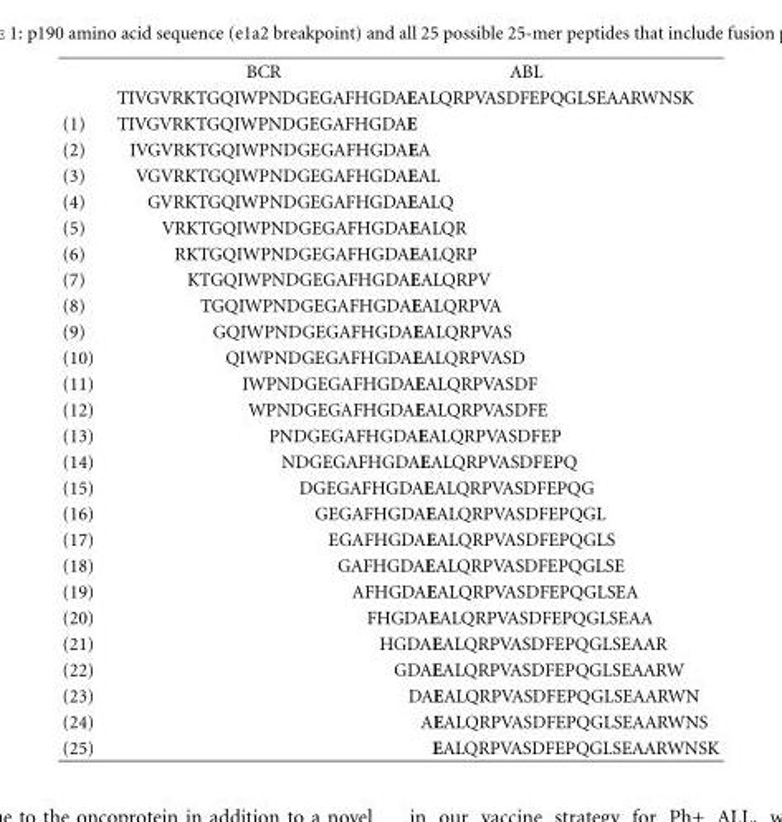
<table><thead><tr><td></td><td>BCR ABL</td></tr></thead><tbody><tr><td></td><td>TIVGVRKTGQIWPNDGEGAFHGDAEALQRPVASDFEPQGLSEAARWNSK</td></tr><tr><td>(1)</td><td>TIVGVRKTGQIWPNDGEGAFHGDAE</td></tr><tr><td>(2)</td><td>IVGVRKTGQIWPNDGEGAFHGDAEA</td></tr><tr><td>(3)</td><td>VGVRKTGQIWPNDGEGAFHGDAEAL</td></tr><tr><td>(4)</td><td>GVRKTGQIWPNDGEGAFHGDAEALQ</td></tr><tr><td>(5)</td><td>VRKTGQIWPNDGEGAFHGDAEALQR</td></tr><tr><td>(6)</td><td>RKTGQIWPNDGEGAFHGDAEALQRP</td></tr><tr><td>(7)</td><td>KTGQIWPNDGEGAFHGDAEALQRPV</td></tr><tr><td>(8)</td><td>TGQIWPNDGEGAFHGDAEALQRPVA</td></tr><tr><td>(9)</td><td>GQIWPNDGEGAFHGDAEALQRPVAS</td></tr><tr><td>(10)</td><td>QIWPNDGEGAFHGDAEALQRPVASD</td></tr><tr><td>(11)</td><td>IWPNDGEGAFHGDAEALQRPVASDF</td></tr><tr><td>(12)</td><td>WPNDGEGAFHGDAEALQRPVASDFE</td></tr><tr><td>(13)</td><td>PNDGEGAFHGDAEALQRPVASDFEP</td></tr><tr><td>(14)</td><td>NDGEGAFHGDAEALQRPVASDFEPQ</td></tr><tr><td>(15)</td><td>DGEGAFHGDAEALQRPVASDFEPQG</td></tr><tr><td>(16)</td><td>GEGAFHGDAEALQRPVASDFEPQGL</td></tr><tr><td>(17)</td><td>EGAFHGDAEALQRPVASDFEPQGLS</td></tr><tr><td>(18)</td><td>GAFHGDAEALQRPVASDFEPQGLSE</td></tr><tr><td>(19)</td><td>AFHGDAEALQRPVASDFEPQGLSEA</td></tr><tr><td>(20)</td><td>FHGDAEALQRPVASDFEPQGLSEAA</td></tr><tr><td>(21)</td><td>HGDAEALQRPVASDFEPQGLSEAAR</td></tr><tr><td>(22)</td><td>GDAEALQRPVASDFEPQGLSEAARW</td></tr><tr><td>(23)</td><td>DAEALQRPVASDFEPQGLSEAARWN</td></tr><tr><td>(24)</td><td>AEALQRPVASDFEPQGLSEAARWNS</td></tr><tr><td>(25)</td><td>EALQRPVASDFEPQGLSEAARWNSK</td></tr></tbody></table>